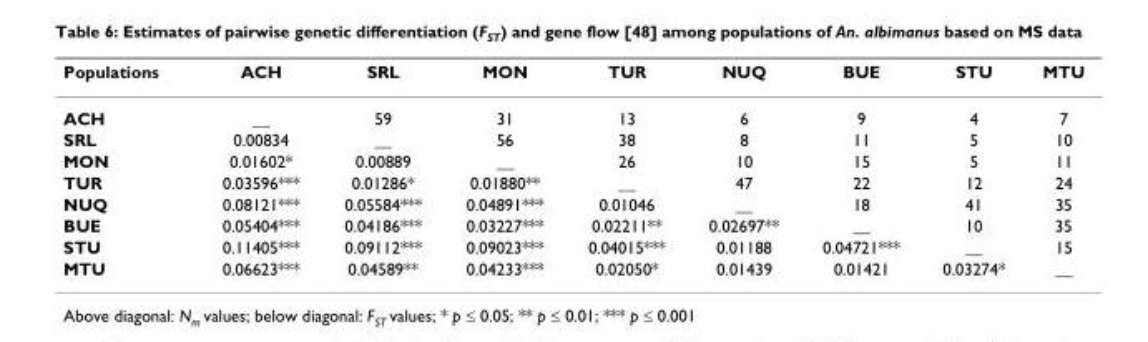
<table><thead><tr><td>Populations</td><td>ACH</td><td>SRL</td><td>MON</td><td>TUR</td><td>NUQ</td><td>BUE</td><td>STU</td><td>MTU</td></tr></thead><tbody><tr><td>ACH</td><td>__</td><td>59</td><td>31</td><td>13</td><td>6</td><td>9</td><td>4</td><td>7</td></tr><tr><td>SRL</td><td>0.00834</td><td>__</td><td>56</td><td>38</td><td>8</td><td>11</td><td>5</td><td>10</td></tr><tr><td>MON</td><td>0.01602*</td><td>0.00889</td><td>__</td><td>26</td><td>10</td><td>15</td><td>5</td><td>11</td></tr><tr><td>TUR</td><td>0.03596***</td><td>0.01286*</td><td>0.01880**</td><td>__</td><td>47</td><td>22</td><td>12</td><td>24</td></tr><tr><td>NUQ</td><td>0.08121***</td><td>0.05584***</td><td>0.04891***</td><td>0.01046</td><td>__</td><td>18</td><td>41</td><td>35</td></tr><tr><td>BUE</td><td>0.05404***</td><td>0.04186***</td><td>0.03227***</td><td>0.02211**</td><td>0.02697**</td><td>__</td><td>10</td><td>35</td></tr><tr><td>STU</td><td>0.11405***</td><td>0.09112***</td><td>0.09023***</td><td>0.04015***</td><td>0.01188</td><td>0.04721***</td><td>__</td><td>15</td></tr><tr><td>MTU</td><td>0.06623***</td><td>0.04589**</td><td>0.04233***</td><td>0.02050*</td><td>0.01439</td><td>0.01421</td><td>0.03274*</td><td>__</td></tr></tbody></table>